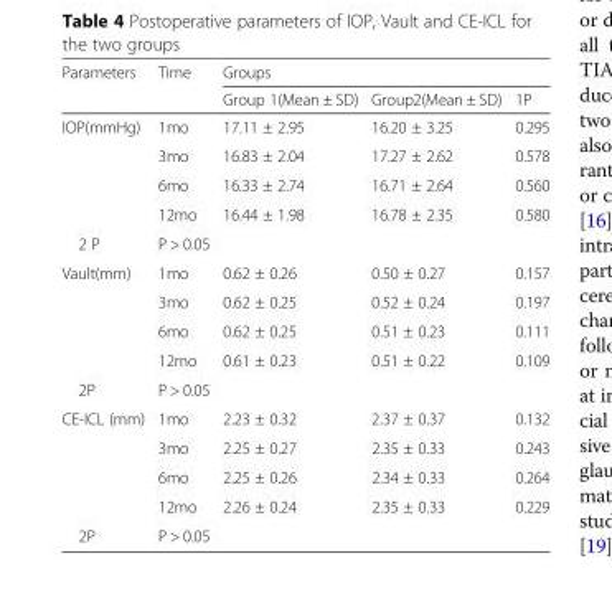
<table><thead><tr><td rowspan="2">Parameters</td><td rowspan="2">Time</td><td colspan="3">Groups</td></tr><tr><td>Group 1(Mean ± SD)</td><td>Group2(Mean ± SD)</td><td>1P</td></tr></thead><tbody><tr><td rowspan="4">IOP(mmHg)</td><td>1mo</td><td>17.11 ± 2.95</td><td>16.20 ± 3.25</td><td>0.295</td></tr><tr><td>3mo</td><td>16.83 ± 2.04</td><td>17.27 ± 2.62</td><td>0.578</td></tr><tr><td>6mo</td><td>16.33 ± 2.74</td><td>16.71 ± 2.64</td><td>0.560</td></tr><tr><td>12mo</td><td>16.44 ± 1.98</td><td>16.78 ± 2.35</td><td>0.580</td></tr><tr><td>2 P</td><td>P &gt; 0.05</td><td></td><td></td><td></td></tr><tr><td rowspan="4">Vault(mm)</td><td>1mo</td><td>0.62 ± 0.26</td><td>0.50 ± 0.27</td><td>0.157</td></tr><tr><td>3mo</td><td>0.62 ± 0.25</td><td>0.52 ± 0.24</td><td>0.197</td></tr><tr><td>6mo</td><td>0.62 ± 0.25</td><td>0.51 ± 0.23</td><td>0.111</td></tr><tr><td>12mo</td><td>0.61 ± 0.23</td><td>0.51 ± 0.22</td><td>0.109</td></tr><tr><td>2P</td><td>P &gt; 0.05</td><td></td><td></td><td></td></tr><tr><td rowspan="4">CE-ICL (mm)</td><td>1mo</td><td>2.23 ± 0.32</td><td>2.37 ± 0.37</td><td>0.132</td></tr><tr><td>3mo</td><td>2.25 ± 0.27</td><td>2.35 ± 0.33</td><td>0.243</td></tr><tr><td>6mo</td><td>2.25 ± 0.26</td><td>2.34 ± 0.33</td><td>0.264</td></tr><tr><td>12mo</td><td>2.26 ± 0.24</td><td>2.35 ± 0.33</td><td>0.229</td></tr><tr><td>2P</td><td>P &gt; 0.05</td><td></td><td></td><td></td></tr></tbody></table>